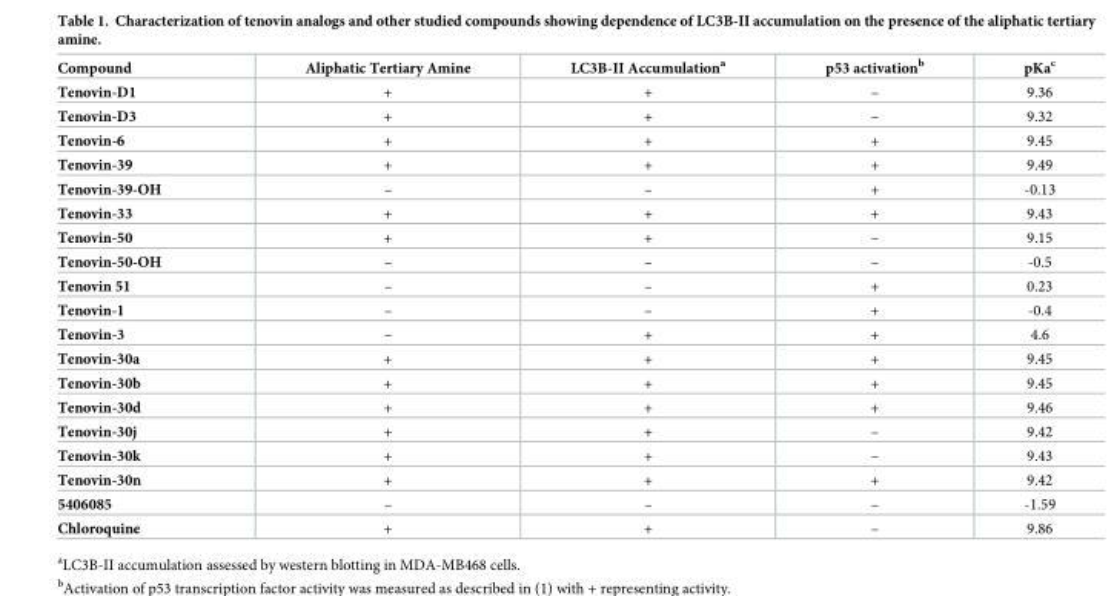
<table><thead><tr><td>Compound</td><td>Aliphatic Tertiary Amine</td><td>LC3B-II Accumulation<sup>a</sup></td><td>p53 activation<sup>b</sup></td><td>pKa<sup>c</sup></td></tr></thead><tbody><tr><td>Tenovin-D1</td><td>+</td><td>+</td><td>–</td><td>9.36</td></tr><tr><td>Tenovin-D3</td><td>+</td><td>+</td><td>–</td><td>9.32</td></tr><tr><td>Tenovin-6</td><td>+</td><td>+</td><td>+</td><td>9.45</td></tr><tr><td>Tenovin-39</td><td>+</td><td>+</td><td>+</td><td>9.49</td></tr><tr><td>Tenovin-39-OH</td><td>–</td><td>–</td><td>+</td><td>-0.13</td></tr><tr><td>Tenovin-33</td><td>+</td><td>+</td><td>+</td><td>9.43</td></tr><tr><td>Tenovin-50</td><td>+</td><td>+</td><td>–</td><td>9.15</td></tr><tr><td>Tenovin-50-OH</td><td>–</td><td>–</td><td>–</td><td>-0.5</td></tr><tr><td>Tenovin 51</td><td>–</td><td>–</td><td>+</td><td>0.23</td></tr><tr><td>Tenovin-1</td><td>–</td><td>–</td><td>+</td><td>-0.4</td></tr><tr><td>Tenovin-3</td><td>–</td><td>+</td><td>+</td><td>4.6</td></tr><tr><td>Tenovin-30a</td><td>+</td><td>+</td><td>+</td><td>9.45</td></tr><tr><td>Tenovin-30b</td><td>+</td><td>+</td><td>+</td><td>9.45</td></tr><tr><td>Tenovin-30d</td><td>+</td><td>+</td><td>+</td><td>9.46</td></tr><tr><td>Tenovin-30j</td><td>+</td><td>+</td><td>–</td><td>9.42</td></tr><tr><td>Tenovin-30k</td><td>+</td><td>+</td><td>–</td><td>9.43</td></tr><tr><td>Tenovin-30n</td><td>+</td><td>+</td><td>+</td><td>9.42</td></tr><tr><td>5406085</td><td>–</td><td>–</td><td>–</td><td>-1.59</td></tr><tr><td>Chloroquine</td><td>+</td><td>+</td><td>–</td><td>9.86</td></tr></tbody></table>